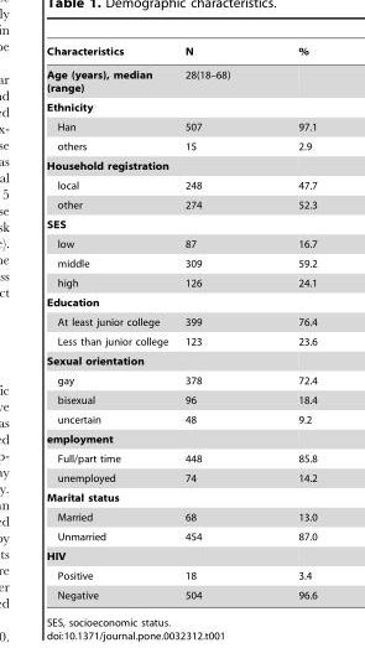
<table><thead><tr><td>Characteristics</td><td>N</td><td>%</td></tr></thead><tbody><tr><td>Age (years), median (range)</td><td>28(18–68)</td><td></td></tr><tr><td colspan="3">Ethnicity</td></tr><tr><td>Han</td><td>507</td><td>97.1</td></tr><tr><td>others</td><td>15</td><td>2.9</td></tr><tr><td colspan="3">Household registration</td></tr><tr><td>local</td><td>248</td><td>47.7</td></tr><tr><td>other</td><td>274</td><td>52.3</td></tr><tr><td colspan="3">SES</td></tr><tr><td>low</td><td>87</td><td>16.7</td></tr><tr><td>middle</td><td>309</td><td>59.2</td></tr><tr><td>high</td><td>126</td><td>24.1</td></tr><tr><td colspan="3">Education</td></tr><tr><td>At least junior college</td><td>399</td><td>76.4</td></tr><tr><td>Less than junior college</td><td>123</td><td>23.6</td></tr><tr><td colspan="3">Sexual orientation</td></tr><tr><td>gay</td><td>378</td><td>72.4</td></tr><tr><td>bisexual</td><td>96</td><td>18.4</td></tr><tr><td>uncertain</td><td>48</td><td>9.2</td></tr><tr><td colspan="3">employment</td></tr><tr><td>Full/part time</td><td>448</td><td>85.8</td></tr><tr><td>unemployed</td><td>74</td><td>14.2</td></tr><tr><td colspan="3">Marital status</td></tr><tr><td>Married</td><td>68</td><td>13.0</td></tr><tr><td>Unmarried</td><td>454</td><td>87.0</td></tr><tr><td colspan="3">HIV</td></tr><tr><td>Positive</td><td>18</td><td>3.4</td></tr><tr><td>Negative</td><td>504</td><td>96.6</td></tr></tbody></table>